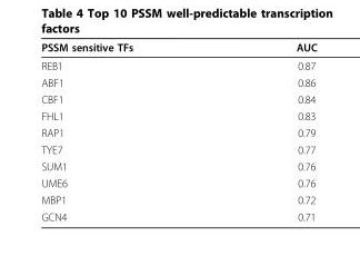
<table><thead><tr><td>PSSM sensitive TFs</td><td>AUC</td></tr></thead><tbody><tr><td>REB1</td><td>0.87</td></tr><tr><td>ABF1</td><td>0.86</td></tr><tr><td>CBF1</td><td>0.84</td></tr><tr><td>FHL1</td><td>0.83</td></tr><tr><td>RAP1</td><td>0.79</td></tr><tr><td>TYE7</td><td>0.77</td></tr><tr><td>SUM1</td><td>0.76</td></tr><tr><td>UME6</td><td>0.76</td></tr><tr><td>MBP1</td><td>0.72</td></tr><tr><td>GCN4</td><td>0.71</td></tr></tbody></table>